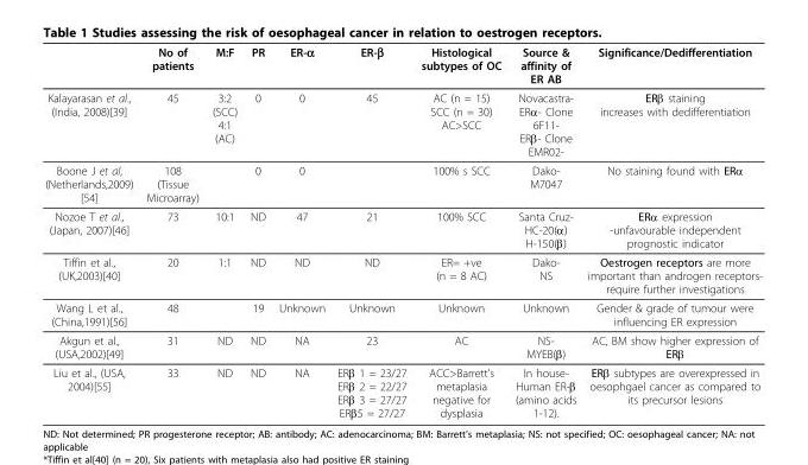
<table><thead><tr><td></td><td>No of patients</td><td>M:F</td><td>PR</td><td>ER-α</td><td>ER-β</td><td>Histological subtypes of OC</td><td>Source &amp; affinity of ER AB</td><td>Significance/Dedifferentiation</td></tr></thead><tbody><tr><td>Kalayarasan et al., (India, 2008)[39]</td><td>45</td><td>3:2 (SCC) 4:1 (AC)</td><td>0</td><td>0</td><td>45</td><td>AC (n = 15) SCC (n = 30) AC&gt;SCC</td><td>Novacastra- ERα- Clone 6F11- ERβ- Clone EMR02-</td><td>ERβ staining increases with dedifferentiation</td></tr><tr><td>Boone J et al, (Netherlands,2009) [54]</td><td>108 (Tissue Microarray)</td><td></td><td>0</td><td>0</td><td></td><td>100% s SCC</td><td>Dako- M7047</td><td>No staining found with ERα</td></tr><tr><td>Nozoe T et al., (Japan, 2007)[46]</td><td>73</td><td>10:1</td><td>ND</td><td>47</td><td>21</td><td>100% SCC</td><td>Santa Cruz- HC-20(α) H-150(β)</td><td>ERα expression -unfavourable independent prognostic indicator</td></tr><tr><td>Tiffin et al., (UK,2003)[40]</td><td>20</td><td>1:1</td><td>ND</td><td>ND</td><td>ND</td><td>ER= +ve (n = 8 AC)</td><td>Dako- NS</td><td>Oestrogen receptors are more important than androgen receptors- require further investigations</td></tr><tr><td>Wang L et al., (China,1991)[56]</td><td>48</td><td></td><td>19</td><td>Unknown</td><td>Unknown</td><td>Unknown</td><td>Unknown</td><td>Gender &amp; grade of tumour were influencing ER expression</td></tr><tr><td>Akgun et al., (USA,2002)[49]</td><td>31</td><td>ND</td><td>ND</td><td>NA</td><td>23</td><td>AC</td><td>NS- MYEB(β)</td><td>AC, BM show higher expression of ERβ</td></tr><tr><td>Liu et al., (USA, 2004)[55]</td><td>33</td><td>ND</td><td>ND</td><td>NA</td><td>ERβ 1 = 23/27 ERβ 2 = 22/27 ERβ 3 = 27/27 ERβ5 = 27/27</td><td>ACC&gt;Barrett’s metaplasia negative for dysplasia</td><td>In house- Human ER-β (amino acids 1-12).</td><td>ERβ subtypes are overexpressed in oesophgael cancer as compared to its precursor lesions</td></tr></tbody></table>